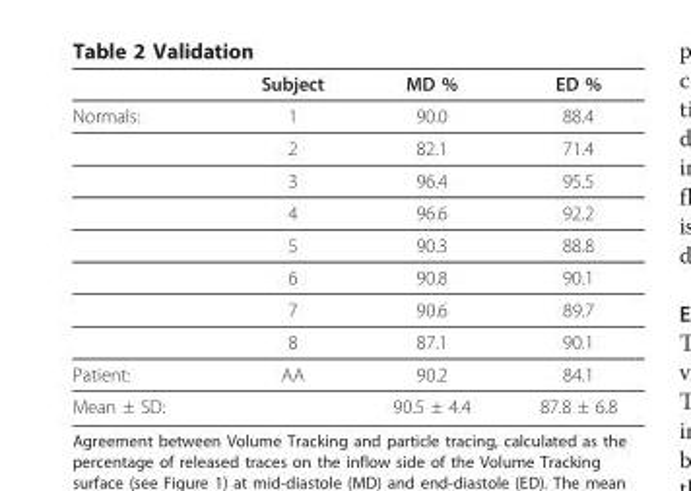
<table><thead><tr><td></td><td>Subject</td><td>MD %</td><td>ED %</td></tr></thead><tbody><tr><td rowspan="8">Normals:</td><td>1</td><td>90.0</td><td>88.4</td></tr><tr><td>2</td><td>82.1</td><td>71.4</td></tr><tr><td>3</td><td>96.4</td><td>95.5</td></tr><tr><td>4</td><td>96.6</td><td>92.2</td></tr><tr><td>5</td><td>90.3</td><td>88.8</td></tr><tr><td>6</td><td>90.8</td><td>90.1</td></tr><tr><td>7</td><td>90.6</td><td>89.7</td></tr><tr><td>8</td><td>87.1</td><td>90.1</td></tr><tr><td>Patient:</td><td>AA</td><td>90.2</td><td>84.1</td></tr><tr><td>Mean ± SD:</td><td></td><td>90.5 ± 4.4</td><td>87.8 ± 6.8</td></tr></tbody></table>